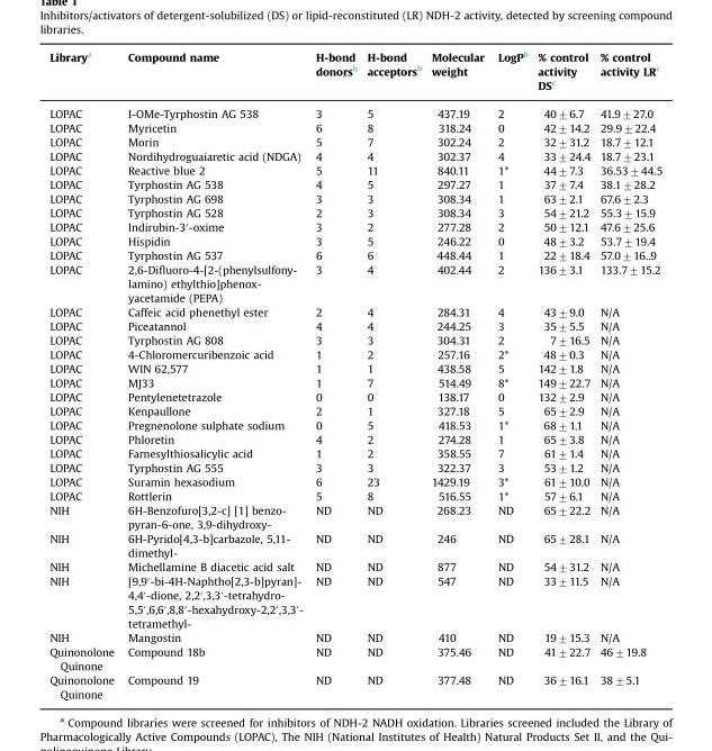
<table><thead><tr><td>Library<sup>a</sup></td><td>Compound name</td><td>H-bond donors<sup>b</sup></td><td>H-bond acceptors<sup>b</sup></td><td>Molecular weight</td><td>LogP<sup>b</sup></td><td>% control activity DS<sup>c</sup></td><td>% control activity LR<sup>c</sup></td></tr></thead><tbody><tr><td>LOPAC</td><td>I-OMe-Tyrphostin AG 538</td><td>3</td><td>5</td><td>437.19</td><td>2</td><td>40±6.7</td><td>41.9±27.0</td></tr><tr><td>LOPAC</td><td>Myricetin</td><td>6</td><td>8</td><td>318.24</td><td>0</td><td>42±14.2</td><td>29.9±22.4</td></tr><tr><td>LOPAC</td><td>Morin</td><td>5</td><td>7</td><td>302.24</td><td>2</td><td>32±31.2</td><td>18.7±12.1</td></tr><tr><td>LOPAC</td><td>Nordihydroguaiaretic acid (NDGA)</td><td>4</td><td>4</td><td>302.37</td><td>4</td><td>33±24.4</td><td>18.7±23.1</td></tr><tr><td>LOPAC</td><td>Reactive blue 2</td><td>5</td><td>11</td><td>840.11</td><td>1*</td><td>44±7.3</td><td>36.53±44.5</td></tr><tr><td>LOPAC</td><td>Tyrphostin AG 538</td><td>4</td><td>5</td><td>297.27</td><td>1</td><td>37±7.4</td><td>38.1±28.2</td></tr><tr><td>LOPAC</td><td>Tyrphostin AG 698</td><td>3</td><td>3</td><td>308.34</td><td>1</td><td>63±2.1</td><td>67.6±2.3</td></tr><tr><td>LOPAC</td><td>Tyrphostin AG 528</td><td>2</td><td>3</td><td>308.34</td><td>3</td><td>54±21.2</td><td>55.3±15.9</td></tr><tr><td>LOPAC</td><td>Indirubin-3′-oxime</td><td>3</td><td>2</td><td>277.28</td><td>2</td><td>50±12.1</td><td>47.6±25.6</td></tr><tr><td>LOPAC</td><td>Hispidin</td><td>3</td><td>5</td><td>246.22</td><td>0</td><td>48±3.2</td><td>53.7±19.4</td></tr><tr><td>LOPAC</td><td>Tyrphostin AG 537</td><td>6</td><td>6</td><td>448.44</td><td>1</td><td>22±18.4</td><td>57.0±16..9</td></tr><tr><td>LOPAC</td><td>2,6-Difluoro-4-[2-(phenylsulfony- lamino) ethylthio]phenox- yacetamide (PEPA)</td><td>3</td><td>4</td><td>402.44</td><td>2</td><td>136±3.1</td><td>133.7±15.2</td></tr><tr><td>LOPAC</td><td>Caffeic acid phenethyl ester</td><td>2</td><td>4</td><td>284.31</td><td>4</td><td>43±9.0</td><td>N/A</td></tr><tr><td>LOPAC</td><td>Piceatannol</td><td>4</td><td>4</td><td>244.25</td><td>3</td><td>35±5.5</td><td>N/A</td></tr><tr><td>LOPAC</td><td>Tyrphostin AG 808</td><td>3</td><td>3</td><td>304.31</td><td>2</td><td>7±16.5</td><td>N/A</td></tr><tr><td>LOPAC</td><td>4-Chloromercuribenzoic acid</td><td>1</td><td>2</td><td>257.16</td><td>2*</td><td>48±0.3</td><td>N/A</td></tr><tr><td>LOPAC</td><td>WIN 62,577</td><td>1</td><td>1</td><td>438.58</td><td>5</td><td>142±1.8</td><td>N/A</td></tr><tr><td>LOPAC</td><td>MJ33</td><td>1</td><td>7</td><td>514.49</td><td>8*</td><td>149±22.7</td><td>N/A</td></tr><tr><td>LOPAC</td><td>Pentylenetetrazole</td><td>0</td><td>0</td><td>138.17</td><td>0</td><td>132±2.9</td><td>N/A</td></tr><tr><td>LOPAC</td><td>Kenpaullone</td><td>2</td><td>1</td><td>327.18</td><td>5</td><td>65±2.9</td><td>N/A</td></tr><tr><td>LOPAC</td><td>Pregnenolone sulphate sodium</td><td>0</td><td>5</td><td>418.53</td><td>1*</td><td>68±1.1</td><td>N/A</td></tr><tr><td>LOPAC</td><td>Phloretin</td><td>4</td><td>2</td><td>274.28</td><td>1</td><td>65±3.8</td><td>N/A</td></tr><tr><td>LOPAC</td><td>Farnesylthiosalicylic acid</td><td>1</td><td>2</td><td>358.55</td><td>7</td><td>61±1.4</td><td>N/A</td></tr><tr><td>LOPAC</td><td>Tyrphostin AG 555</td><td>3</td><td>3</td><td>322.37</td><td>3</td><td>53±1.2</td><td>N/A</td></tr><tr><td>LOPAC</td><td>Suramin hexasodium</td><td>6</td><td>23</td><td>1429.19</td><td>3*</td><td>61±10.0</td><td>N/A</td></tr><tr><td>LOPAC</td><td>Rottlerin</td><td>5</td><td>8</td><td>516.55</td><td>1*</td><td>57±6.1</td><td>N/A</td></tr><tr><td>NIH</td><td>6H-Benzofuro[3,2-c] [1] benzo- pyran-6-one, 3,9-dihydroxy-</td><td>ND</td><td>ND</td><td>268.23</td><td>ND</td><td>65±22.2</td><td>N/A</td></tr><tr><td>NIH</td><td>6H-Pyrido[4,3-b]carbazole, 5,11- dimethyl-</td><td>ND</td><td>ND</td><td>246</td><td>ND</td><td>65±28.1</td><td>N/A</td></tr><tr><td>NIH</td><td>Michellamine B diacetic acid salt</td><td>ND</td><td>ND</td><td>877</td><td>ND</td><td>54±31.2</td><td>N/A</td></tr><tr><td>NIH</td><td>[9,9′-bi-4H-Naphtho[2,3-b]pyran]- 4,4′-dione, 2,2′,3,3′-tetrahydro- 5,5′,6,6′,8,8′-hexahydroxy-2,2′,3,3′- tetramethyl-</td><td>ND</td><td>ND</td><td>547</td><td>ND</td><td>33±11.5</td><td>N/A</td></tr><tr><td>NIH</td><td>Mangostin</td><td>ND</td><td>ND</td><td>410</td><td>ND</td><td>19±15.3</td><td>N/A</td></tr><tr><td>Quinonolone Quinone</td><td>Compound 18b</td><td>ND</td><td>ND</td><td>375.46</td><td>ND</td><td>41±22.7</td><td>46±19.8</td></tr><tr><td>Quinonolone Quinone</td><td>Compound 19</td><td>ND</td><td>ND</td><td>377.48</td><td>ND</td><td>36±16.1</td><td>38±5.1</td></tr></tbody></table>